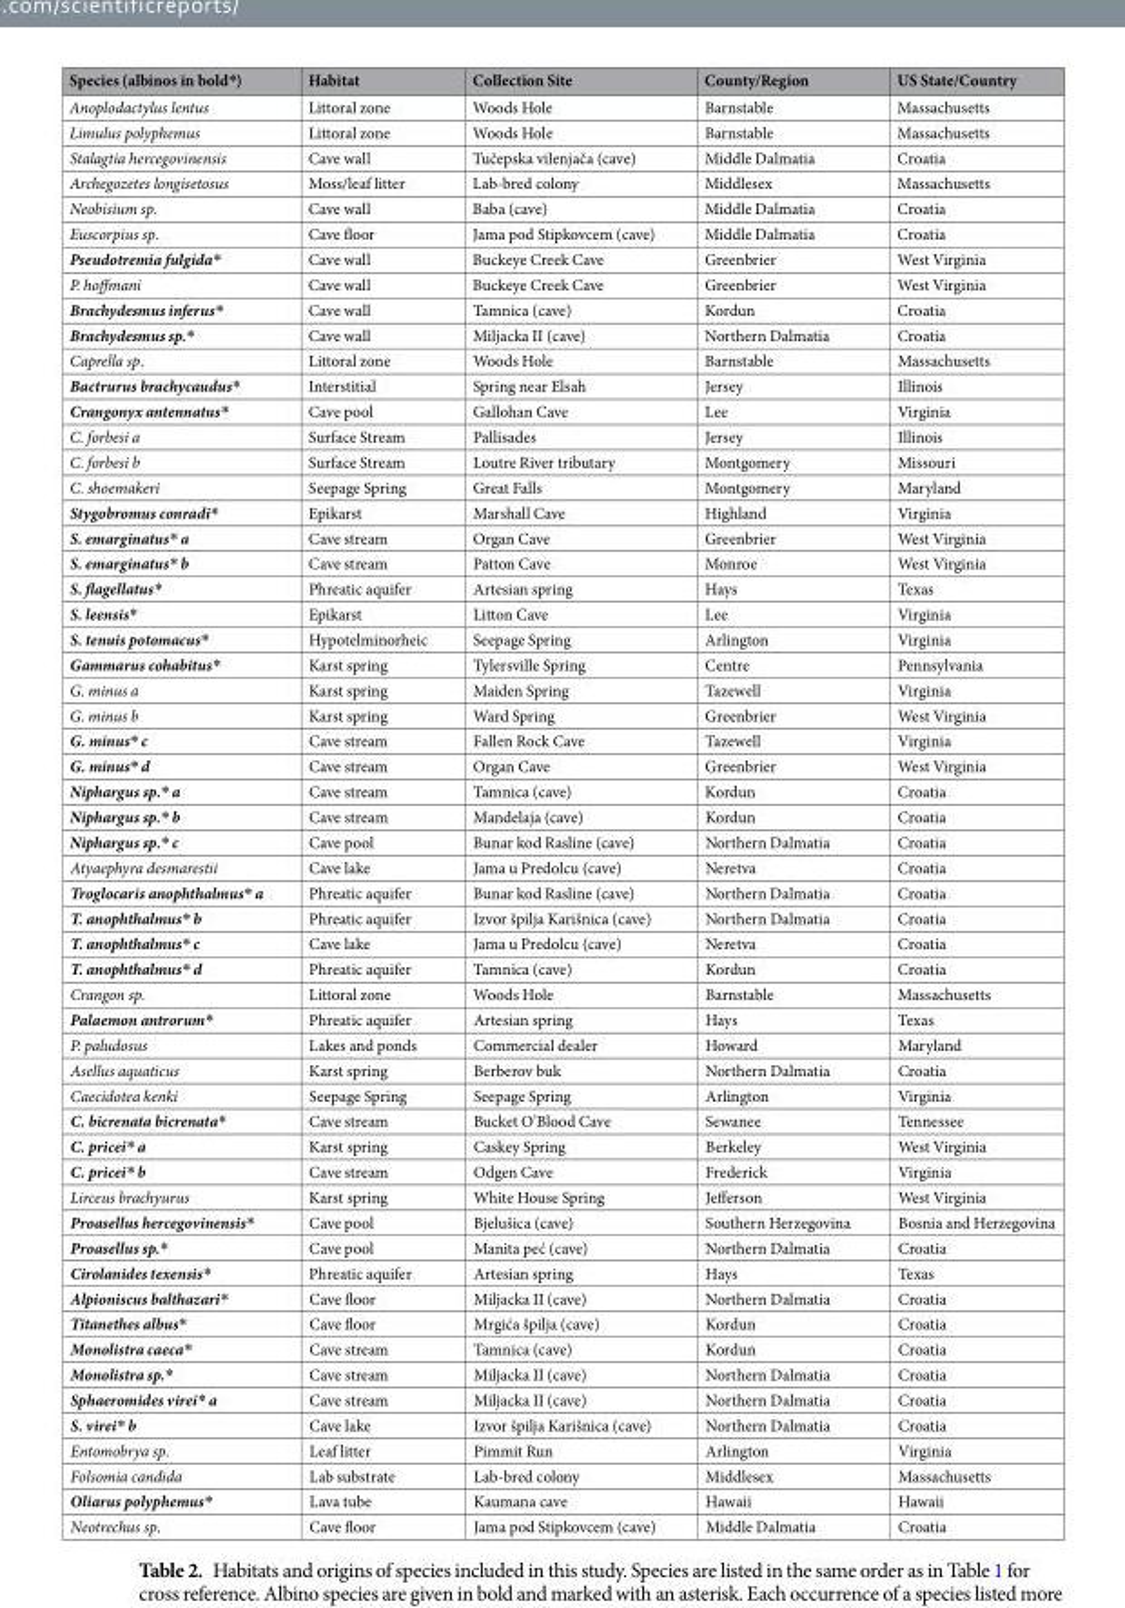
<table><thead><tr><td>Species (albinos in bold*)</td><td>Habitat</td><td>Collection Site</td><td>County/Region</td><td>US State/Country</td></tr></thead><tbody><tr><td>Anoplodactylus lentus</td><td>Littoral zone</td><td>Woods Hole</td><td>Barnstable</td><td>Massachusetts</td></tr><tr><td>Limulus polyphemus</td><td>Littoral zone</td><td>Woods Hole</td><td>Barnstable</td><td>Massachusetts</td></tr><tr><td>Stalagtia hercegovinensis</td><td>Cave wall</td><td>Tučepska vilenjača (cave)</td><td>Middle Dalmatia</td><td>Croatia</td></tr><tr><td>Archegozetes longisetosus</td><td>Moss/leaf litter</td><td>Lab-bred colony</td><td>Middlesex</td><td>Massachusetts</td></tr><tr><td>Neobisium sp.</td><td>Cave wall</td><td>Baba (cave)</td><td>Middle Dalmatia</td><td>Croatia</td></tr><tr><td>Euscorpius sp.</td><td>Cave floor</td><td>Jama pod Stipkovcem (cave)</td><td>Middle Dalmatia</td><td>Croatia</td></tr><tr><td>Pseudotremia fulgida*</td><td>Cave wall</td><td>Buckeye Creek Cave</td><td>Greenbrier</td><td>West Virginia</td></tr><tr><td>P. hoffmani</td><td>Cave wall</td><td>Buckeye Creek Cave</td><td>Greenbrier</td><td>West Virginia</td></tr><tr><td>Brachydesmus inferus*</td><td>Cave wall</td><td>Tamnica (cave)</td><td>Kordun</td><td>Croatia</td></tr><tr><td>Brachydesmus sp.*</td><td>Cave wall</td><td>Miljacka II (cave)</td><td>Northern Dalmatia</td><td>Croatia</td></tr><tr><td>Caprella sp.</td><td>Littoral zone</td><td>Woods Hole</td><td>Barnstable</td><td>Massachusetts</td></tr><tr><td>Bactrurus brachycaudus*</td><td>Interstitial</td><td>Spring near Elsah</td><td>Jersey</td><td>Illinois</td></tr><tr><td>Crangonyx antennatus*</td><td>Cave pool</td><td>Gallohan Cave</td><td>Lee</td><td>Virginia</td></tr><tr><td>C. forbesi a</td><td>Surface Stream</td><td>Pallisades</td><td>Jersey</td><td>Illinois</td></tr><tr><td>C. forbesi b</td><td>Surface Stream</td><td>Loutre River tributary</td><td>Montgomery</td><td>Missouri</td></tr><tr><td>C. shoemakeri</td><td>Seepage Spring</td><td>Great Falls</td><td>Montgomery</td><td>Maryland</td></tr><tr><td>Stygobromus conradi*</td><td>Epikarst</td><td>Marshall Cave</td><td>Highland</td><td>Virginia</td></tr><tr><td>S. emarginatus* a</td><td>Cave stream</td><td>Organ Cave</td><td>Greenbrier</td><td>West Virginia</td></tr><tr><td>S. emarginatus* b</td><td>Cave stream</td><td>Patton Cave</td><td>Monroe</td><td>West Virginia</td></tr><tr><td>S. flagellatus*</td><td>Phreatic aquifer</td><td>Artesian spring</td><td>Hays</td><td>Texas</td></tr><tr><td>S. leensis*</td><td>Epikarst</td><td>Litton Cave</td><td>Lee</td><td>Virginia</td></tr><tr><td>S. tenuis potomacus*</td><td>Hypotelminorheic</td><td>Seepage Spring</td><td>Arlington</td><td>Virginia</td></tr><tr><td>Gammarus cohabitus*</td><td>Karst spring</td><td>Tylersville Spring</td><td>Centre</td><td>Pennsylvania</td></tr><tr><td>G. minus a</td><td>Karst spring</td><td>Maiden Spring</td><td>Tazewell</td><td>Virginia</td></tr><tr><td>G. minus b</td><td>Karst spring</td><td>Ward Spring</td><td>Greenbrier</td><td>West Virginia</td></tr><tr><td>G. minus* c</td><td>Cave stream</td><td>Fallen Rock Cave</td><td>Tazewell</td><td>Virginia</td></tr><tr><td>G. minus* d</td><td>Cave stream</td><td>Organ Cave</td><td>Greenbrier</td><td>West Virginia</td></tr><tr><td>Niphargus sp.* a</td><td>Cave stream</td><td>Tamnica (cave)</td><td>Kordun</td><td>Croatia</td></tr><tr><td>Niphargus sp.* b</td><td>Cave stream</td><td>Mandelaja (cave)</td><td>Kordun</td><td>Croatia</td></tr><tr><td>Niphargus sp.* c</td><td>Cave pool</td><td>Bunar kod Rasline (cave)</td><td>Northern Dalmatia</td><td>Croatia</td></tr><tr><td>Atyaephyra desmarestii</td><td>Cave lake</td><td>Jama u Predolcu (cave)</td><td>Neretva</td><td>Croatia</td></tr><tr><td>Troglocaris anophthalmus* a</td><td>Phreatic aquifer</td><td>Bunar kod Rasline (cave)</td><td>Northern Dalmatia</td><td>Croatia</td></tr><tr><td>T. anophthalmus* b</td><td>Phreatic aquifer</td><td>Izvor špilja Karišnica (cave)</td><td>Northern Dalmatia</td><td>Croatia</td></tr><tr><td>T. anophthalmus* c</td><td>Cave lake</td><td>Jama u Predolcu (cave)</td><td>Neretva</td><td>Croatia</td></tr><tr><td>T. anophthalmus* d</td><td>Phreatic aquifer</td><td>Tamnica (cave)</td><td>Kordun</td><td>Croatia</td></tr><tr><td>Crangon sp.</td><td>Littoral zone</td><td>Woods Hole</td><td>Barnstable</td><td>Massachusetts</td></tr><tr><td>Palaemon antrorum*</td><td>Phreatic aquifer</td><td>Artesian spring</td><td>Hays</td><td>Texas</td></tr><tr><td>P. paludosus</td><td>Lakes and ponds</td><td>Commercial dealer</td><td>Howard</td><td>Maryland</td></tr><tr><td>Asellus aquaticus</td><td>Karst spring</td><td>Berberov buk</td><td>Northern Dalmatia</td><td>Croatia</td></tr><tr><td>Caecidotea kenki</td><td>Seepage Spring</td><td>Seepage Spring</td><td>Arlington</td><td>Virginia</td></tr><tr><td>C. bicrenata bicrenata*</td><td>Cave stream</td><td>Bucket O’Blood Cave</td><td>Sewanee</td><td>Tennessee</td></tr><tr><td>C. pricei* a</td><td>Karst spring</td><td>Caskey Spring</td><td>Berkeley</td><td>West Virginia</td></tr><tr><td>C. pricei* b</td><td>Cave stream</td><td>Odgen Cave</td><td>Frederick</td><td>Virginia</td></tr><tr><td>Lirceus brachyurus</td><td>Karst spring</td><td>White House Spring</td><td>Jefferson</td><td>West Virginia</td></tr><tr><td>Proasellus hercegovinensis*</td><td>Cave pool</td><td>Bjelušica (cave)</td><td>Southern Herzegovina</td><td>Bosnia and Herzegovina</td></tr><tr><td>Proasellus sp.*</td><td>Cave pool</td><td>Manita peć (cave)</td><td>Northern Dalmatia</td><td>Croatia</td></tr><tr><td>Cirolanides texensis*</td><td>Phreatic aquifer</td><td>Artesian spring</td><td>Hays</td><td>Texas</td></tr><tr><td>Alpioniscus balthazari*</td><td>Cave floor</td><td>Miljacka II (cave)</td><td>Northern Dalmatia</td><td>Croatia</td></tr><tr><td>Titanethes albus*</td><td>Cave floor</td><td>Mrgića špilja (cave)</td><td>Kordun</td><td>Croatia</td></tr><tr><td>Monolistra caeca*</td><td>Cave stream</td><td>Tamnica (cave)</td><td>Kordun</td><td>Croatia</td></tr><tr><td>Monolistra sp.*</td><td>Cave stream</td><td>Miljacka II (cave)</td><td>Northern Dalmatia</td><td>Croatia</td></tr><tr><td>Sphaeromides virei* a</td><td>Cave stream</td><td>Miljacka II (cave)</td><td>Northern Dalmatia</td><td>Croatia</td></tr><tr><td>S. virei* b</td><td>Cave lake</td><td>Izvor špilja Karišnica (cave)</td><td>Northern Dalmatia</td><td>Croatia</td></tr><tr><td>Entomobrya sp.</td><td>Leaf litter</td><td>Pimmit Run</td><td>Arlington</td><td>Virginia</td></tr><tr><td>Folsomia candida</td><td>Lab substrate</td><td>Lab-bred colony</td><td>Middlesex</td><td>Massachusetts</td></tr><tr><td>Oliarus polyphemus*</td><td>Lava tube</td><td>Kaumana cave</td><td>Hawaii</td><td>Hawaii</td></tr><tr><td>Neotrechus sp.</td><td>Cave floor</td><td>Jama pod Stipkovcem (cave)</td><td>Middle Dalmatia</td><td>Croatia</td></tr></tbody></table>